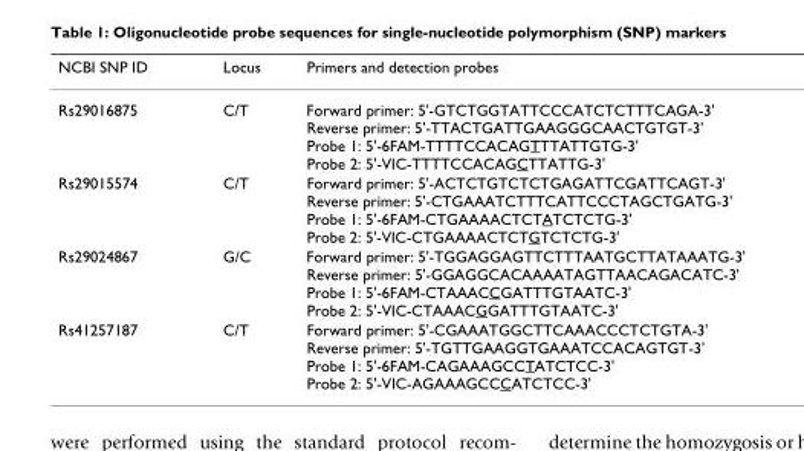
<table><thead><tr><td>NCBI SNP ID</td><td>Locus</td><td>Primers and detection probes</td></tr></thead><tbody><tr><td>Rs29016875</td><td>C/T</td><td>Forward primer: 5&#x27;-GTCTGGTATTCCCATCTCTTTCAGA-3&#x27; Reverse primer: 5&#x27;-TTACTGATTGAAGGGCAACTGTGT-3&#x27; Probe 1: 5&#x27;-6FAM-TTTTCCACAGTTTATTGTG-3&#x27; Probe 2: 5&#x27;-VIC-TTTTCCACAGCTTATTG-3&#x27;</td></tr><tr><td>Rs29015574</td><td>C/T</td><td>Forward primer: 5&#x27;-ACTCTGTCTCTGAGATTCGATTCAGT-3&#x27; Reverse primer: 5&#x27;-CTGAAATCTTTCATTCCCTAGCTGATG-3&#x27; Probe 1: 5&#x27;-6FAM-CTGAAAACTCTATCTCTG-3&#x27; Probe 2: 5&#x27;-VIC-CTGAAAACTCTGTCTCTG-3&#x27;</td></tr><tr><td>Rs29024867</td><td>G/C</td><td>Forward primer: 5&#x27;-TGGAGGAGTTCTTTAATGCTTATAAATG-3&#x27; Reverse primer: 5&#x27;-GGAGGCACAAAATAGTTAACAGACATC-3&#x27; Probe 1: 5&#x27;-6FAM-CTAAACCGATTTGTAATC-3&#x27; Probe 2: 5&#x27;-VIC-CTAAACGGATTTGTAATC-3&#x27;</td></tr><tr><td>Rs41257187</td><td>C/T</td><td>Forward primer: 5&#x27;-CGAAATGGCTTCAAACCCTCTGTA-3&#x27; Reverse primer: 5&#x27;-TGTTGAAGGTGAAATCCACAGTGT-3&#x27; Probe 1: 5&#x27;-6FAM-CAGAAAGCCTATCTCC-3&#x27; Probe 2: 5&#x27;-VIC-AGAAAGCCCATCTCC-3&#x27;</td></tr></tbody></table>